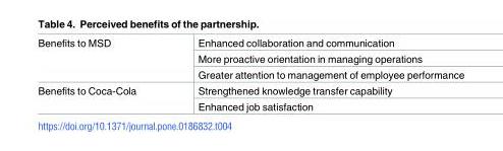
<table><tbody><tr><td rowspan="3">Benefits to MSD</td><td>Enhanced collaboration and communication</td></tr><tr><td>More proactive orientation in managing operations</td></tr><tr><td>Greater attention to management of employee performance</td></tr><tr><td rowspan="2">Benefits to Coca-Cola</td><td>Strengthened knowledge transfer capability</td></tr><tr><td>Enhanced job satisfaction</td></tr></tbody></table>